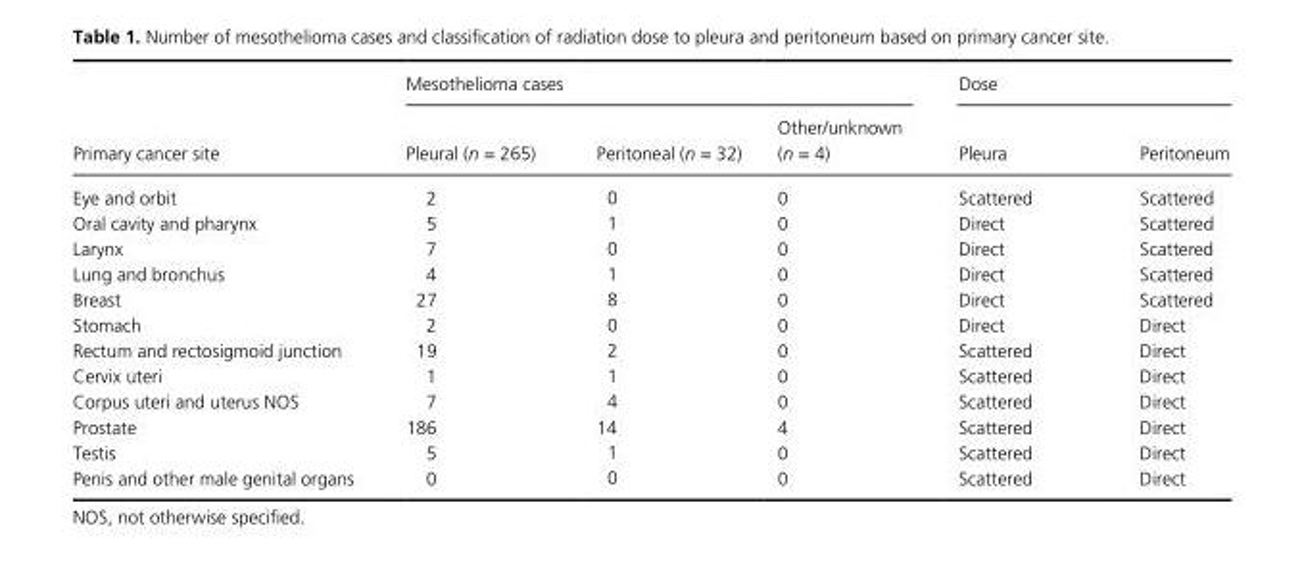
<table><thead><tr><td rowspan="2">Primary cancer site</td><td colspan="3">Mesothelioma cases</td><td colspan="2">Dose</td></tr><tr><td>Pleural (n = 265)</td><td>Peritoneal (n = 32)</td><td>Other/unknown (n = 4)</td><td>Pleura</td><td>Peritoneum</td></tr></thead><tbody><tr><td>Eye and orbit</td><td>2</td><td>0</td><td>0</td><td>Scattered</td><td>Scattered</td></tr><tr><td>Oral cavity and pharynx</td><td>5</td><td>1</td><td>0</td><td>Direct</td><td>Scattered</td></tr><tr><td>Larynx</td><td>7</td><td>0</td><td>0</td><td>Direct</td><td>Scattered</td></tr><tr><td>Lung and bronchus</td><td>4</td><td>1</td><td>0</td><td>Direct</td><td>Scattered</td></tr><tr><td>Breast</td><td>27</td><td>8</td><td>0</td><td>Direct</td><td>Scattered</td></tr><tr><td>Stomach</td><td>2</td><td>0</td><td>0</td><td>Direct</td><td>Direct</td></tr><tr><td>Rectum and rectosigmoid junction</td><td>19</td><td>2</td><td>0</td><td>Scattered</td><td>Direct</td></tr><tr><td>Cervix uteri</td><td>1</td><td>1</td><td>0</td><td>Scattered</td><td>Direct</td></tr><tr><td>Corpus uteri and uterus NOS</td><td>7</td><td>4</td><td>0</td><td>Scattered</td><td>Direct</td></tr><tr><td>Prostate</td><td>186</td><td>14</td><td>4</td><td>Scattered</td><td>Direct</td></tr><tr><td>Testis</td><td>5</td><td>1</td><td>0</td><td>Scattered</td><td>Direct</td></tr><tr><td>Penis and other male genital organs</td><td>0</td><td>0</td><td>0</td><td>Scattered</td><td>Direct</td></tr></tbody></table>